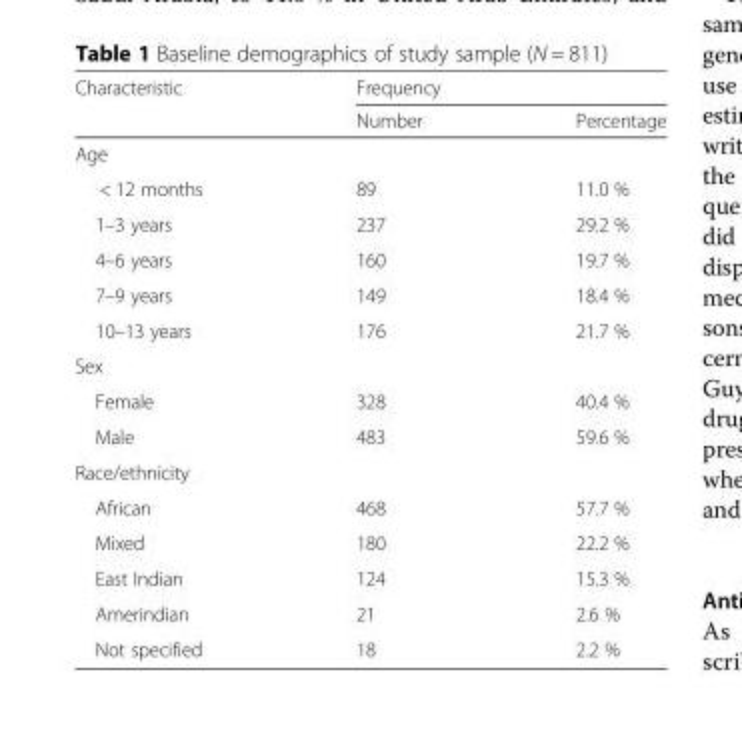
<table><thead><tr><td rowspan="2">Characteristic</td><td colspan="2">Frequency</td></tr><tr><td>Number</td><td>Percentage</td></tr></thead><tbody><tr><td colspan="3">Age</td></tr><tr><td>&lt; 12 months</td><td>89</td><td>11.0 %</td></tr><tr><td>1–3 years</td><td>237</td><td>29.2 %</td></tr><tr><td>4–6 years</td><td>160</td><td>19.7 %</td></tr><tr><td>7–9 years</td><td>149</td><td>18.4 %</td></tr><tr><td>10–13 years</td><td>176</td><td>21.7 %</td></tr><tr><td colspan="3">Sex</td></tr><tr><td>Female</td><td>328</td><td>40.4 %</td></tr><tr><td>Male</td><td>483</td><td>59.6 %</td></tr><tr><td colspan="3">Race/ethnicity</td></tr><tr><td>African</td><td>468</td><td>57.7 %</td></tr><tr><td>Mixed</td><td>180</td><td>22.2 %</td></tr><tr><td>East Indian</td><td>124</td><td>15.3 %</td></tr><tr><td>Amerindian</td><td>21</td><td>2.6 %</td></tr><tr><td>Not specified</td><td>18</td><td>2.2 %</td></tr></tbody></table>